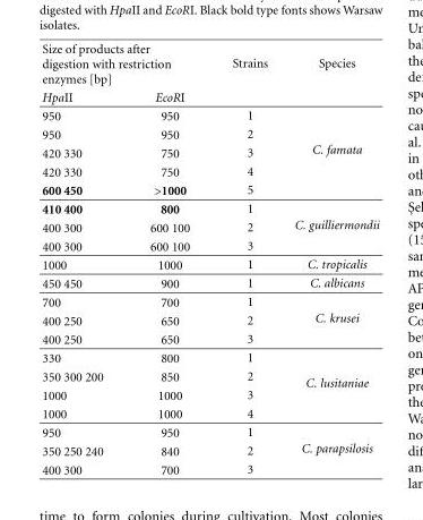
<table><thead><tr><td colspan="2">Size of products after digestion with restriction enzymes [bp]</td><td rowspan="2">Strains</td><td rowspan="2">Species</td></tr><tr><td>HpaII</td><td>EcoRI</td></tr></thead><tbody><tr><td>950</td><td>950</td><td>1</td><td rowspan="5">C. famata</td></tr><tr><td>950</td><td>950</td><td>2</td></tr><tr><td>420 330</td><td>750</td><td>3</td></tr><tr><td>420 330</td><td>750</td><td>4</td></tr><tr><td>600 450</td><td>&gt;1000</td><td>5</td></tr><tr><td>410 400</td><td>800</td><td>1</td><td rowspan="3">C. guilliermondii</td></tr><tr><td>400 300</td><td>600 100</td><td>2</td></tr><tr><td>400 300</td><td>600 100</td><td>3</td></tr><tr><td>1000</td><td>1000</td><td>1</td><td>C. tropicalis</td></tr><tr><td>450 450</td><td>900</td><td>1</td><td>C. albicans</td></tr><tr><td>700</td><td>700</td><td>1</td><td rowspan="3">C. krusei</td></tr><tr><td>400 250</td><td>650</td><td>2</td></tr><tr><td>400 250</td><td>650</td><td>3</td></tr><tr><td>330</td><td>800</td><td>1</td><td rowspan="4">C. lusitaniae</td></tr><tr><td>350 300 200</td><td>850</td><td>2</td></tr><tr><td>1000</td><td>1000</td><td>3</td></tr><tr><td>1000</td><td>1000</td><td>4</td></tr><tr><td>950</td><td>950</td><td>1</td><td rowspan="3">C. parapsilosis</td></tr><tr><td>350 250 240</td><td>840</td><td>2</td></tr><tr><td>400 300</td><td>700</td><td>3</td></tr></tbody></table>